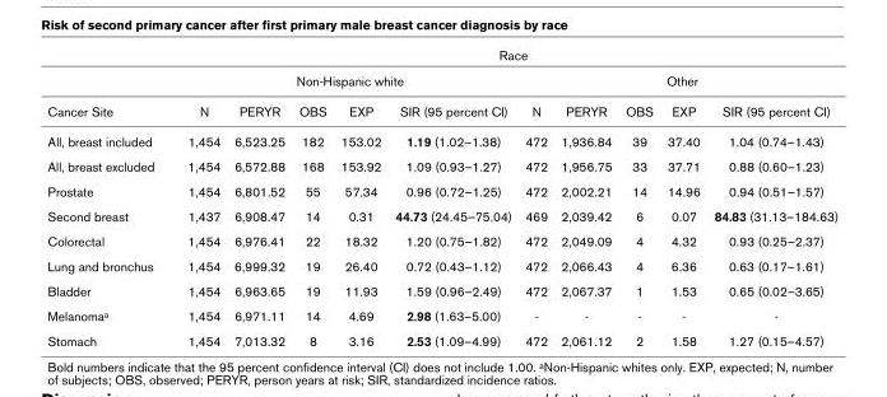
<table><thead><tr><td rowspan="3">Cancer Site</td><td colspan="10">Race</td></tr><tr><td colspan="5">Non-Hispanic white</td><td colspan="5">Other</td></tr><tr><td>N</td><td>PERYR</td><td>OBS</td><td>EXP</td><td>SIR (95 percent CI)</td><td>N</td><td>PERYR</td><td>OBS</td><td>EXP</td><td>SIR (95 percent CI)</td></tr></thead><tbody><tr><td>All, breast included</td><td>1,454</td><td>6,523.25</td><td>182</td><td>153.02</td><td>1.19 (1.02–1.38)</td><td>472</td><td>1,936.84</td><td>39</td><td>37.40</td><td>1.04 (0.74–1.43)</td></tr><tr><td>All, breast excluded</td><td>1,454</td><td>6,572.88</td><td>168</td><td>153.92</td><td>1.09 (0.93–1.27)</td><td>472</td><td>1,956.75</td><td>33</td><td>37.71</td><td>0.88 (0.60–1.23)</td></tr><tr><td>Prostate</td><td>1,454</td><td>6,801.52</td><td>55</td><td>57.34</td><td>0.96 (0.72–1.25)</td><td>472</td><td>2,002.21</td><td>14</td><td>14.96</td><td>0.94 (0.51–1.57)</td></tr><tr><td>Second breast</td><td>1,437</td><td>6,908.47</td><td>14</td><td>0.31</td><td>44.73 (24.45–75.04)</td><td>469</td><td>2,039.42</td><td>6</td><td>0.07</td><td>84.83 (31.13–184.63)</td></tr><tr><td>Colorectal</td><td>1,454</td><td>6,976.41</td><td>22</td><td>18.32</td><td>1.20 (0.75–1.82)</td><td>472</td><td>2,049.09</td><td>4</td><td>4.32</td><td>0.93 (0.25–2.37)</td></tr><tr><td>Lung and bronchus</td><td>1,454</td><td>6,999.32</td><td>19</td><td>26.40</td><td>0.72 (0.43–1.12)</td><td>472</td><td>2,066.43</td><td>4</td><td>6.36</td><td>0.63 (0.17–1.61)</td></tr><tr><td>Bladder</td><td>1,454</td><td>6,963.65</td><td>19</td><td>11.93</td><td>1.59 (0.96–2.49)</td><td>472</td><td>2,067.37</td><td>1</td><td>1.53</td><td>0.65 (0.02–3.65)</td></tr><tr><td>Melanomaa</td><td>1,454</td><td>6,971.11</td><td>14</td><td>4.69</td><td>2.98 (1.63–5.00)</td><td>-</td><td>-</td><td>-</td><td>-</td><td>-</td></tr><tr><td>Stomach</td><td>1,454</td><td>7,013.32</td><td>8</td><td>3.16</td><td>2.53 (1.09–4.99)</td><td>472</td><td>2,061.12</td><td>2</td><td>1.58</td><td>1.27 (0.15–4.57)</td></tr></tbody></table>